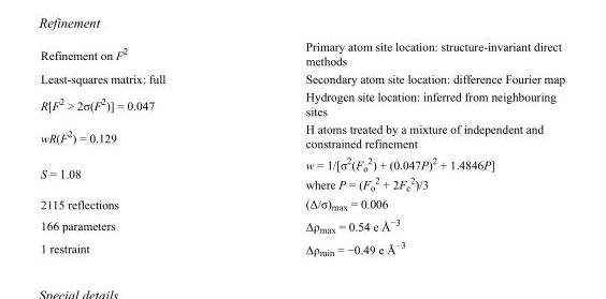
<table><tbody><tr><td>Refinement on F<sup>2</sup></td><td>Primary atom site location: structure-invariant direct methods</td></tr><tr><td>Least-squares matrix: full</td><td>Secondary atom site location: difference Fourier map</td></tr><tr><td>R[F<sup>2</sup> &gt; 2σ(F<sup>2</sup>)] = 0.047</td><td>Hydrogen site location: inferred from neighbouring sites</td></tr><tr><td>wR(F<sup>2</sup>) = 0.129</td><td>H atoms treated by a mixture of independent and constrained refinement</td></tr><tr><td>S = 1.08</td><td>w = 1/[σ<sup>2</sup>(F<sub>o</sub> <sup>2</sup>) + (0.047P)<sup>2</sup> + 1.4846P] where P = (F<sub>o</sub> <sup>2</sup> + 2F<sub>c</sub> <sup>2</sup>)/3</td></tr><tr><td>2115 reflections</td><td>(Δ/σ)<sub>max</sub> = 0.006</td></tr><tr><td>166 parameters</td><td>Δρ<sub>max</sub> = 0.54 e Å<sup>−3</sup></td></tr><tr><td>1 restraint</td><td>Δρ<sub>min</sub> = −0.49 e Å<sup>−3</sup></td></tr></tbody></table>